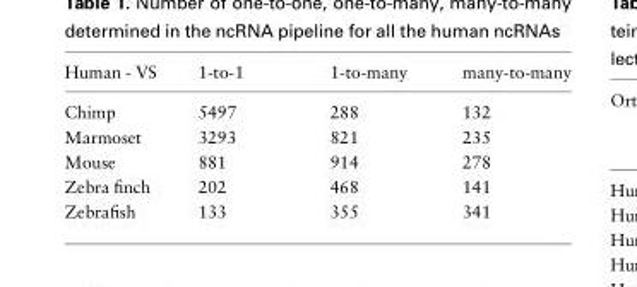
<table><thead><tr><td>Human - VS</td><td>1-to-1</td><td>1-to-many</td><td>many-to-many</td></tr></thead><tbody><tr><td>Chimp</td><td>5497</td><td>288</td><td>132</td></tr><tr><td>Marmoset</td><td>3293</td><td>821</td><td>235</td></tr><tr><td>Mouse</td><td>881</td><td>914</td><td>278</td></tr><tr><td>Zebra finch</td><td>202</td><td>468</td><td>141</td></tr><tr><td>Zebrafish</td><td>133</td><td>355</td><td>341</td></tr></tbody></table>